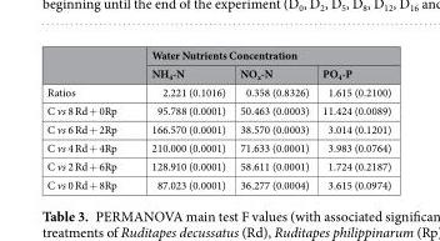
<table><thead><tr><td rowspan="2"></td><td colspan="3">Water Nutrients Concentration</td></tr><tr><td>NH<sub>4</sub>-N</td><td>NO<sub>x</sub>-N</td><td>PO<sub>4</sub>-P</td></tr></thead><tbody><tr><td>Ratios</td><td>2.221 (0.1016)</td><td>0.358 (0.8326)</td><td>1.615 (0.2100)</td></tr><tr><td>C vs 8 Rd + 0Rp</td><td>95.788 (0.0001)</td><td>50.463 (0.0003)</td><td>11.424 (0.0089)</td></tr><tr><td>C vs 6 Rd + 2Rp</td><td>166.570 (0.0001)</td><td>38.570 (0.0003)</td><td>3.014 (0.1201)</td></tr><tr><td>C vs 4 Rd + 4Rp</td><td>210.000 (0.0001)</td><td>71.633 (0.0001)</td><td>3.983 (0.0764)</td></tr><tr><td>C vs 2 Rd + 6Rp</td><td>128.910 (0.0001)</td><td>58.611 (0.0001)</td><td>1.724 (0.2187)</td></tr><tr><td>C vs 0 Rd + 8Rp</td><td>87.023 (0.0001)</td><td>36.277 (0.0004)</td><td>3.615 (0.0974)</td></tr></tbody></table>